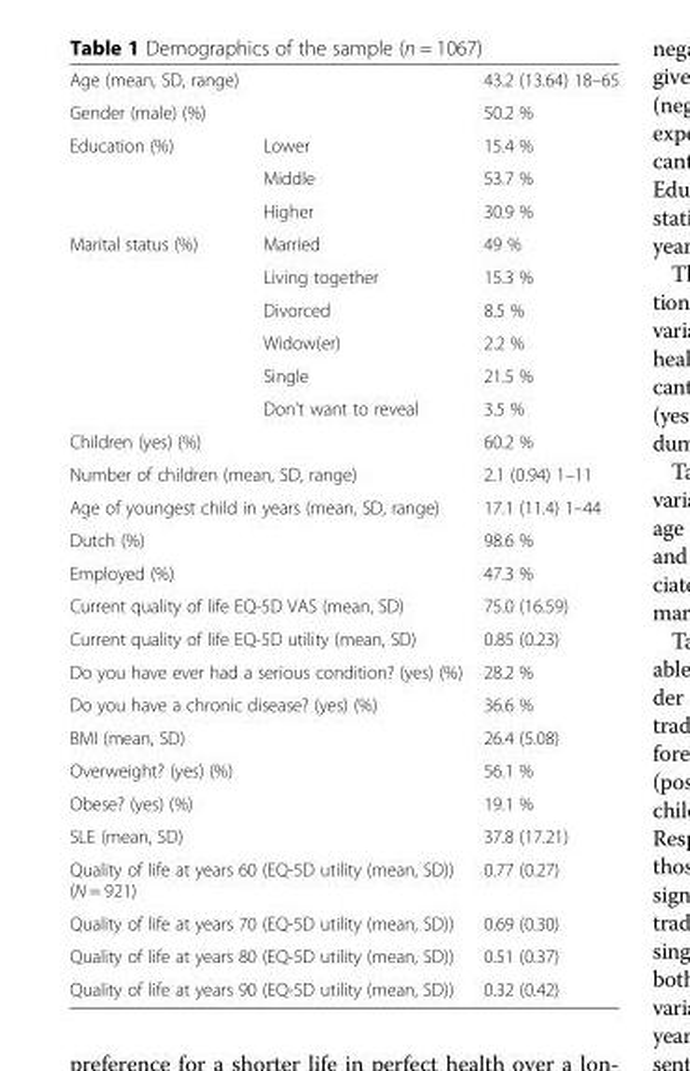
<table><tbody><tr><td colspan="2">Age (mean, SD, range)</td><td>43.2 (13.64) 18–65</td></tr><tr><td colspan="2">Gender (male) (%)</td><td>50.2 %</td></tr><tr><td rowspan="3">Education (%)</td><td>Lower</td><td>15.4 %</td></tr><tr><td>Middle</td><td>53.7 %</td></tr><tr><td>Higher</td><td>30.9 %</td></tr><tr><td rowspan="6">Marital status (%)</td><td>Married</td><td>49 %</td></tr><tr><td>Living together</td><td>15.3 %</td></tr><tr><td>Divorced</td><td>8.5 %</td></tr><tr><td>Widow(er)</td><td>2.2 %</td></tr><tr><td>Single</td><td>21.5 %</td></tr><tr><td>Don’t want to reveal</td><td>3.5 %</td></tr><tr><td colspan="2">Children (yes) (%)</td><td>60.2 %</td></tr><tr><td colspan="2">Number of children (mean, SD, range)</td><td>2.1 (0.94) 1–11</td></tr><tr><td colspan="2">Age of youngest child in years (mean, SD, range)</td><td>17.1 (11.4) 1–44</td></tr><tr><td colspan="2">Dutch (%)</td><td>98.6 %</td></tr><tr><td colspan="2">Employed (%)</td><td>47.3 %</td></tr><tr><td colspan="2">Current quality of life EQ-5D VAS (mean, SD)</td><td>75.0 (16.59)</td></tr><tr><td colspan="2">Current quality of life EQ-5D utility (mean, SD)</td><td>0.85 (0.23)</td></tr><tr><td colspan="2">Do you have ever had a serious condition? (yes) (%)</td><td>28.2 %</td></tr><tr><td colspan="2">Do you have a chronic disease? (yes) (%)</td><td>36.6 %</td></tr><tr><td colspan="2">BMI (mean, SD)</td><td>26.4 (5.08)</td></tr><tr><td colspan="2">Overweight? (yes) (%)</td><td>56.1 %</td></tr><tr><td colspan="2">Obese? (yes) (%)</td><td>19.1 %</td></tr><tr><td colspan="2">SLE (mean, SD)</td><td>37.8 (17.21)</td></tr><tr><td colspan="2">Quality of life at years 60 (EQ-5D utility (mean, SD)) (N = 921)</td><td>0.77 (0.27)</td></tr><tr><td colspan="2">Quality of life at years 70 (EQ-5D utility (mean, SD))</td><td>0.69 (0.30)</td></tr><tr><td colspan="2">Quality of life at years 80 (EQ-5D utility (mean, SD))</td><td>0.51 (0.37)</td></tr><tr><td colspan="2">Quality of life at years 90 (EQ-5D utility (mean, SD))</td><td>0.32 (0.42)</td></tr></tbody></table>